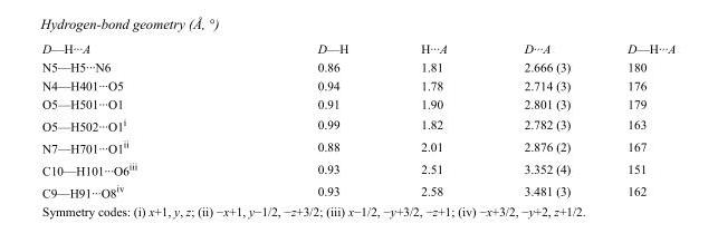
<table><tbody><tr><td>D—H···A</td><td>D—H</td><td>H···A</td><td>D···A</td><td>D—H···A</td></tr><tr><td>N5—H5···N6</td><td>0.86</td><td>1.81</td><td>2.666 (3)</td><td>180</td></tr><tr><td>N4—H401···O5</td><td>0.94</td><td>1.78</td><td>2.714 (3)</td><td>176</td></tr><tr><td>O5—H501···O1</td><td>0.91</td><td>1.90</td><td>2.801 (3)</td><td>179</td></tr><tr><td>O5—H502···O1<sup>i</sup></td><td>0.99</td><td>1.82</td><td>2.782 (3)</td><td>163</td></tr><tr><td>N7—H701···O1<sup>ii</sup></td><td>0.88</td><td>2.01</td><td>2.876 (2)</td><td>167</td></tr><tr><td>C10—H101···O6<sup>iii</sup></td><td>0.93</td><td>2.51</td><td>3.352 (4)</td><td>151</td></tr><tr><td>C9—H91···O8<sup>iv</sup></td><td>0.93</td><td>2.58</td><td>3.481 (3)</td><td>162</td></tr></tbody></table>